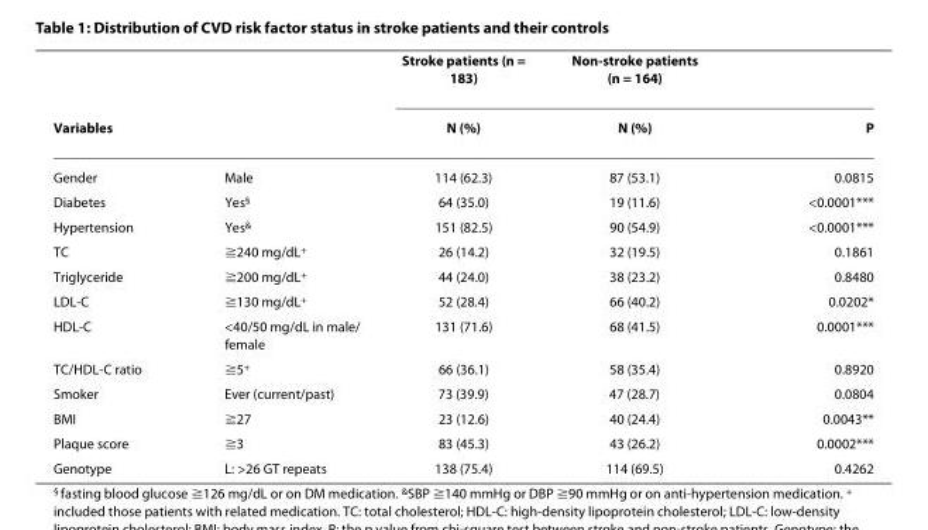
<table><thead><tr><td rowspan="2">Variables</td><td rowspan="2"></td><td rowspan="2">Stroke patients (n = 183) N (%)</td><td rowspan="2">Non-stroke patients (n = 164) N (%)</td><td rowspan="2">P</td></tr><tr></tr></thead><tbody><tr><td>Gender</td><td>Male</td><td>114 (62.3)</td><td>87 (53.1)</td><td>0.0815</td></tr><tr><td>Diabetes</td><td>Yes<sup>§</sup></td><td>64 (35.0)</td><td>19 (11.6)</td><td>&lt;0.0001***</td></tr><tr><td>Hypertension</td><td>Yes<sup>&amp;</sup></td><td>151 (82.5)</td><td>90 (54.9)</td><td>&lt;0.0001***</td></tr><tr><td>TC</td><td>≧240 mg/dL<sup>+</sup></td><td>26 (14.2)</td><td>32 (19.5)</td><td>0.1861</td></tr><tr><td>Triglyceride</td><td>≧200 mg/dL<sup>+</sup></td><td>44 (24.0)</td><td>38 (23.2)</td><td>0.8480</td></tr><tr><td>LDL-C</td><td>≧130 mg/dL<sup>+</sup></td><td>52 (28.4)</td><td>66 (40.2)</td><td>0.0202*</td></tr><tr><td>HDL-C</td><td>&lt;40/50 mg/dL in male/ female</td><td>131 (71.6)</td><td>68 (41.5)</td><td>0.0001***</td></tr><tr><td>TC/HDL-C ratio</td><td>≧5<sup>+</sup></td><td>66 (36.1)</td><td>58 (35.4)</td><td>0.8920</td></tr><tr><td>Smoker</td><td>Ever (current/past)</td><td>73 (39.9)</td><td>47 (28.7)</td><td>0.0804</td></tr><tr><td>BMI</td><td>≧27</td><td>23 (12.6)</td><td>40 (24.4)</td><td>0.0043**</td></tr><tr><td>Plaque score</td><td>≧3</td><td>83 (45.3)</td><td>43 (26.2)</td><td>0.0002***</td></tr><tr><td>Genotype</td><td>L: &gt;26 GT repeats</td><td>138 (75.4)</td><td>114 (69.5)</td><td>0.4262</td></tr></tbody></table>